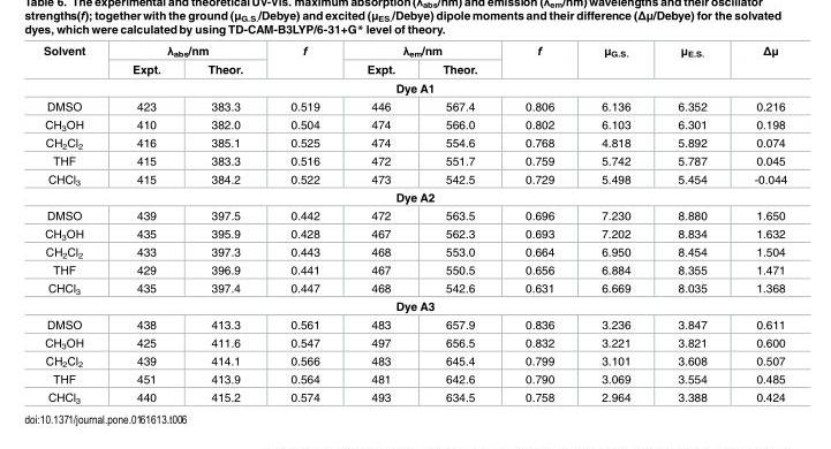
<table><thead><tr><td rowspan="2">Solvent</td><td colspan="2">λ<sub>abs</sub>/nm</td><td rowspan="2">f</td><td colspan="2">λ<sub>em</sub>/nm</td><td rowspan="2">f</td><td rowspan="2">μ<sub>G.S.</sub></td><td rowspan="2">μ<sub>E.S.</sub></td><td rowspan="2">Δμ</td></tr><tr><td>Expt.</td><td>Theor.</td><td>Expt.</td><td>Theor.</td></tr></thead><tbody><tr><td colspan="10">Dye A1</td></tr><tr><td>DMSO</td><td>423</td><td>383.3</td><td>0.519</td><td>446</td><td>567.4</td><td>0.806</td><td>6.136</td><td>6.352</td><td>0.216</td></tr><tr><td>CH<sub>3</sub>OH</td><td>410</td><td>382.0</td><td>0.504</td><td>474</td><td>566.0</td><td>0.802</td><td>6.103</td><td>6.301</td><td>0.198</td></tr><tr><td>CH<sub>2</sub>Cl<sub>2</sub></td><td>416</td><td>385.1</td><td>0.525</td><td>474</td><td>554.6</td><td>0.768</td><td>4.818</td><td>5.892</td><td>0.074</td></tr><tr><td>THF</td><td>415</td><td>383.3</td><td>0.516</td><td>472</td><td>551.7</td><td>0.759</td><td>5.742</td><td>5.787</td><td>0.045</td></tr><tr><td>CHCl<sub>3</sub></td><td>415</td><td>384.2</td><td>0.522</td><td>473</td><td>542.5</td><td>0.729</td><td>5.498</td><td>5.454</td><td>-0.044</td></tr><tr><td colspan="10">Dye A2</td></tr><tr><td>DMSO</td><td>439</td><td>397.5</td><td>0.442</td><td>472</td><td>563.5</td><td>0.696</td><td>7.230</td><td>8.880</td><td>1.650</td></tr><tr><td>CH<sub>3</sub>OH</td><td>435</td><td>395.9</td><td>0.428</td><td>467</td><td>562.3</td><td>0.693</td><td>7.202</td><td>8.834</td><td>1.632</td></tr><tr><td>CH<sub>2</sub>Cl<sub>2</sub></td><td>433</td><td>397.3</td><td>0.443</td><td>468</td><td>553.0</td><td>0.664</td><td>6.950</td><td>8.454</td><td>1.504</td></tr><tr><td>THF</td><td>429</td><td>396.9</td><td>0.441</td><td>467</td><td>550.5</td><td>0.656</td><td>6.884</td><td>8.355</td><td>1.471</td></tr><tr><td>CHCl<sub>3</sub></td><td>435</td><td>397.4</td><td>0.447</td><td>468</td><td>542.6</td><td>0.631</td><td>6.669</td><td>8.035</td><td>1.368</td></tr><tr><td colspan="10">Dye A3</td></tr><tr><td>DMSO</td><td>438</td><td>413.3</td><td>0.561</td><td>483</td><td>657.9</td><td>0.836</td><td>3.236</td><td>3.847</td><td>0.611</td></tr><tr><td>CH<sub>3</sub>OH</td><td>425</td><td>411.6</td><td>0.547</td><td>497</td><td>656.5</td><td>0.832</td><td>3.221</td><td>3.821</td><td>0.600</td></tr><tr><td>CH<sub>2</sub>Cl<sub>2</sub></td><td>439</td><td>414.1</td><td>0.566</td><td>483</td><td>645.4</td><td>0.799</td><td>3.101</td><td>3.608</td><td>0.507</td></tr><tr><td>THF</td><td>451</td><td>413.9</td><td>0.564</td><td>481</td><td>642.6</td><td>0.790</td><td>3.069</td><td>3.554</td><td>0.485</td></tr><tr><td>CHCl<sub>3</sub></td><td>440</td><td>415.2</td><td>0.574</td><td>493</td><td>634.5</td><td>0.758</td><td>2.964</td><td>3.388</td><td>0.424</td></tr></tbody></table>